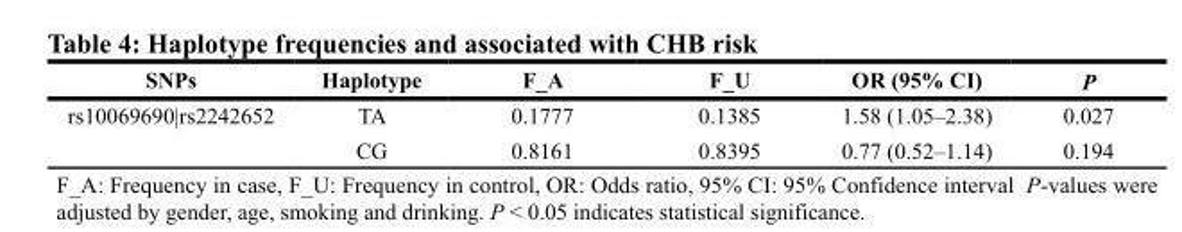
<table><thead><tr><td>SNPs</td><td>Haplotype</td><td>F_A</td><td>F_U</td><td>OR (95% CI)</td><td>P</td></tr></thead><tbody><tr><td rowspan="2">rs10069690|rs2242652</td><td>TA</td><td>0.1777</td><td>0.1385</td><td>1.58 (1.05–2.38)</td><td>0.027</td></tr><tr><td>CG</td><td>0.8161</td><td>0.8395</td><td>0.77 (0.52–1.14)</td><td>0.194</td></tr></tbody></table>